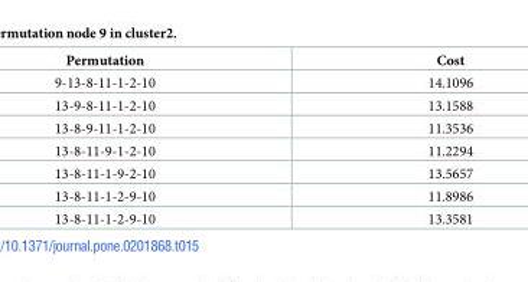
<table><thead><tr><td>Permutation</td><td>Cost</td></tr></thead><tbody><tr><td>9-13-8-11-1-2-10</td><td>14.1096</td></tr><tr><td>13-9-8-11-1-2-10</td><td>13.1588</td></tr><tr><td>13-8-9-11-1-2-10</td><td>11.3536</td></tr><tr><td>13-8-11-9-1-2-10</td><td>11.2294</td></tr><tr><td>13-8-11-1-9-2-10</td><td>13.5657</td></tr><tr><td>13-8-11-1-2-9-10</td><td>11.8986</td></tr><tr><td>13-8-11-1-2-9-10</td><td>13.3581</td></tr></tbody></table>